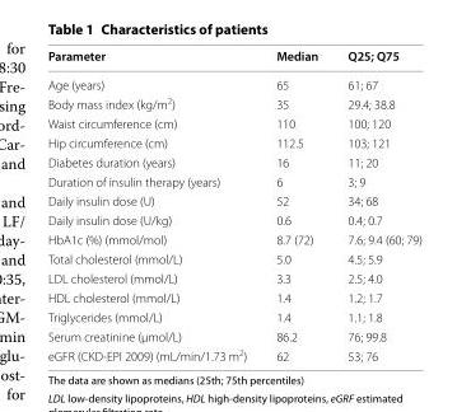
<table><thead><tr><td>Parameter</td><td>Median</td><td>Q25; Q75</td></tr></thead><tbody><tr><td>Age (years)</td><td>65</td><td>61; 67</td></tr><tr><td>Body mass index (kg/m<sup>2</sup>)</td><td>35</td><td>29.4; 38.8</td></tr><tr><td>Waist circumference (cm)</td><td>110</td><td>100; 120</td></tr><tr><td>Hip circumference (cm)</td><td>112.5</td><td>103; 121</td></tr><tr><td>Diabetes duration (years)</td><td>16</td><td>11; 20</td></tr><tr><td>Duration of insulin therapy (years)</td><td>6</td><td>3; 9</td></tr><tr><td>Daily insulin dose (U)</td><td>52</td><td>34; 68</td></tr><tr><td>Daily insulin dose (U/kg)</td><td>0.6</td><td>0.4; 0.7</td></tr><tr><td>HbA1c (%) (mmol/mol)</td><td>8.7 (72)</td><td>7.6; 9.4 (60; 79)</td></tr><tr><td>Total cholesterol (mmol/L)</td><td>5.0</td><td>4.5; 5.9</td></tr><tr><td>LDL cholesterol (mmol/L)</td><td>3.3</td><td>2.5; 4.0</td></tr><tr><td>HDL cholesterol (mmol/L)</td><td>1.4</td><td>1.2; 1.7</td></tr><tr><td>Triglycerides (mmol/L)</td><td>1.4</td><td>1.1; 1.8</td></tr><tr><td>Serum creatinine (μmol/L)</td><td>86.2</td><td>76; 99.8</td></tr><tr><td>eGFR (CKD-EPI 2009) (mL/min/1.73 m<sup>2</sup>)</td><td>62</td><td>53; 76</td></tr></tbody></table>